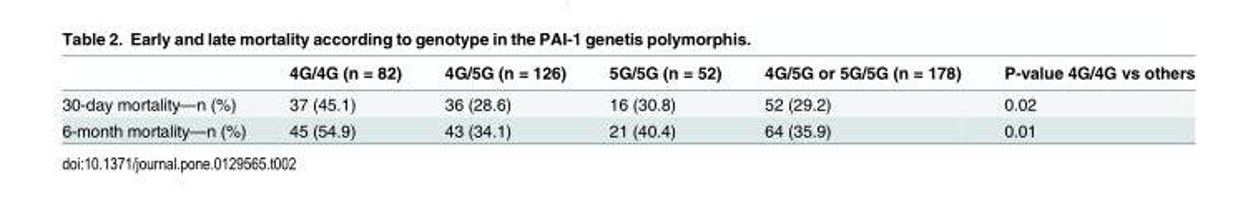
<table><thead><tr><td></td><td>4G/4G (n = 82)</td><td>4G/5G (n = 126)</td><td>5G/5G (n = 52)</td><td>4G/5G or 5G/5G (n = 178)</td><td>P-value 4G/4G vs others</td></tr></thead><tbody><tr><td>30-day mortality—n (%)</td><td>37 (45.1)</td><td>36 (28.6)</td><td>16 (30.8)</td><td>52 (29.2)</td><td>0.02</td></tr><tr><td>6-month mortality—n (%)</td><td>45 (54.9)</td><td>43 (34.1)</td><td>21 (40.4)</td><td>64 (35.9)</td><td>0.01</td></tr></tbody></table>